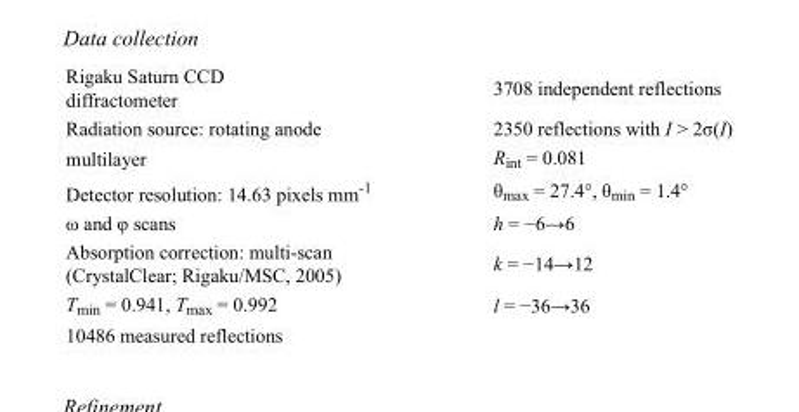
<table><tbody><tr><td>Rigaku Saturn CCD diffractometer</td><td>3708 independent reflections</td></tr><tr><td>Radiation source: rotating anode</td><td>2350 reflections with I &gt; 2σ(I)</td></tr><tr><td>multilayer</td><td>R<sub>int</sub> = 0.081</td></tr><tr><td>Detector resolution: 14.63 pixels mm<sup>-1</sup></td><td>θ<sub>max</sub> = 27.4°, θ<sub>min</sub> = 1.4°</td></tr><tr><td>ω and φ scans</td><td>h = −6→6</td></tr><tr><td>Absorption correction: multi-scan (CrystalClear; Rigaku/MSC, 2005)</td><td>k = −14→12</td></tr><tr><td>T<sub>min</sub> = 0.941, T<sub>max</sub> = 0.992</td><td>l = −36→36</td></tr><tr><td>10486 measured reflections</td><td></td></tr></tbody></table>